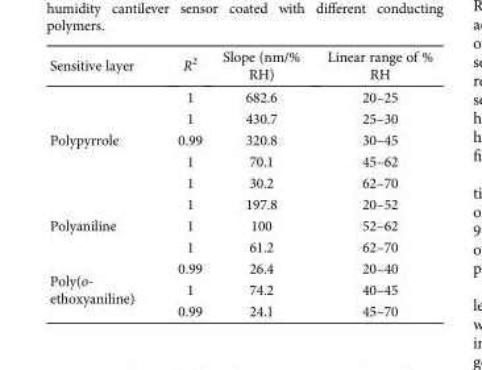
<table><thead><tr><td>Sensitive layer</td><td>R<sup>2</sup></td><td>Slope (nm/% RH)</td><td>Linear range of % RH</td></tr></thead><tbody><tr><td rowspan="5">Polypyrrole</td><td>1</td><td>682.6</td><td>20–25</td></tr><tr><td>1</td><td>430.7</td><td>25–30</td></tr><tr><td>0.99</td><td>320.8</td><td>30–45</td></tr><tr><td>1</td><td>70.1</td><td>45–62</td></tr><tr><td>1</td><td>30.2</td><td>62–70</td></tr><tr><td rowspan="3">Polyaniline</td><td>1</td><td>197.8</td><td>20–52</td></tr><tr><td>1</td><td>100</td><td>52–62</td></tr><tr><td>1</td><td>61.2</td><td>62–70</td></tr><tr><td rowspan="3">Poly(o- ethoxyaniline)</td><td>0.99</td><td>26.4</td><td>20–40</td></tr><tr><td>1</td><td>74.2</td><td>40–45</td></tr><tr><td>0.99</td><td>24.1</td><td>45–70</td></tr></tbody></table>